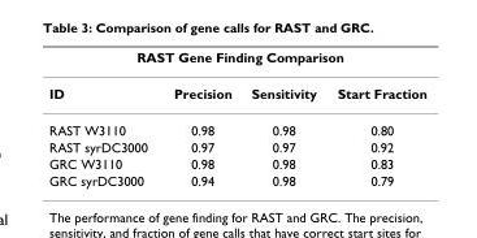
<table><thead><tr><td colspan="4">RAST Gene Finding Comparison</td></tr><tr><td>ID</td><td>Precision</td><td>Sensitivity</td><td>Start Fraction</td></tr></thead><tbody><tr><td>RAST W3110</td><td>0.98</td><td>0.98</td><td>0.80</td></tr><tr><td>RAST syrDC3000</td><td>0.97</td><td>0.97</td><td>0.92</td></tr><tr><td>GRC W3110</td><td>0.98</td><td>0.98</td><td>0.83</td></tr><tr><td>GRC syrDC3000</td><td>0.94</td><td>0.98</td><td>0.79</td></tr></tbody></table>